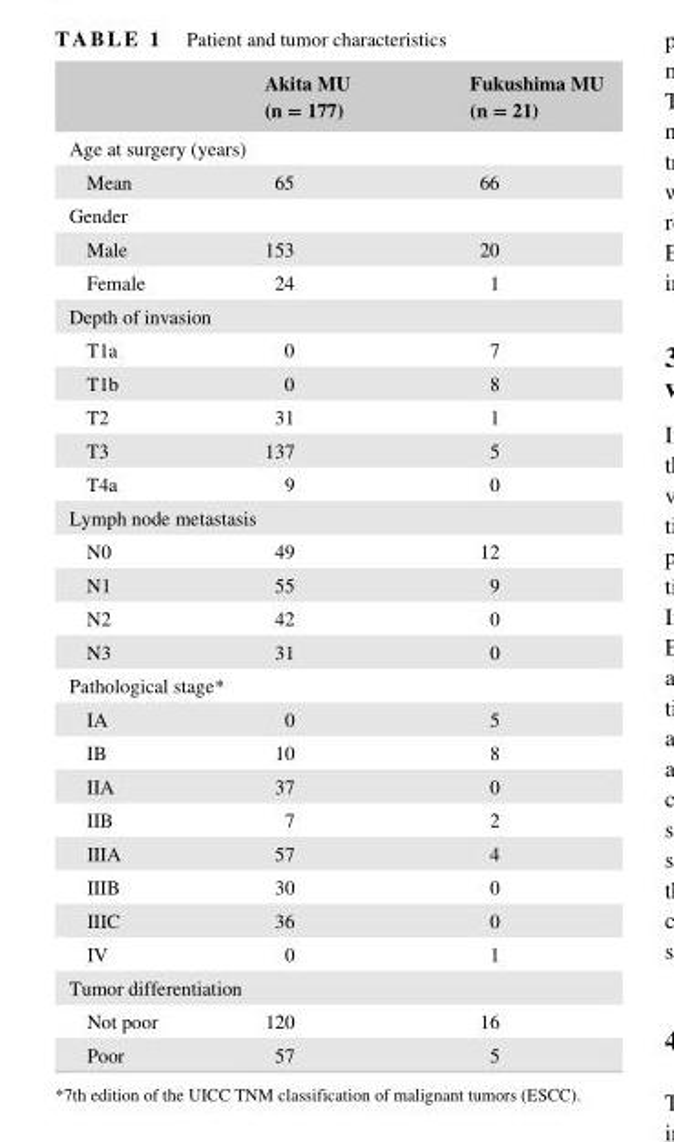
<table><thead><tr><td></td><td>Akita MU (n = 177)</td><td>Fukushima MU (n = 21)</td></tr></thead><tbody><tr><td colspan="3">Age at surgery (years)</td></tr><tr><td>Mean</td><td>65</td><td>66</td></tr><tr><td colspan="3">Gender</td></tr><tr><td>Male</td><td>153</td><td>20</td></tr><tr><td>Female</td><td>24</td><td>1</td></tr><tr><td colspan="3">Depth of invasion</td></tr><tr><td>T1a</td><td>0</td><td>7</td></tr><tr><td>T1b</td><td>0</td><td>8</td></tr><tr><td>T2</td><td>31</td><td>1</td></tr><tr><td>T3</td><td>137</td><td>5</td></tr><tr><td>T4a</td><td>9</td><td>0</td></tr><tr><td colspan="3">Lymph node metastasis</td></tr><tr><td>N0</td><td>49</td><td>12</td></tr><tr><td>N1</td><td>55</td><td>9</td></tr><tr><td>N2</td><td>42</td><td>0</td></tr><tr><td>N3</td><td>31</td><td>0</td></tr><tr><td colspan="3">Pathological stage*</td></tr><tr><td>IA</td><td>0</td><td>5</td></tr><tr><td>IB</td><td>10</td><td>8</td></tr><tr><td>IIA</td><td>37</td><td>0</td></tr><tr><td>IIB</td><td>7</td><td>2</td></tr><tr><td>IIIA</td><td>57</td><td>4</td></tr><tr><td>IIIB</td><td>30</td><td>0</td></tr><tr><td>IIIC</td><td>36</td><td>0</td></tr><tr><td>IV</td><td>0</td><td>1</td></tr><tr><td colspan="3">Tumor differentiation</td></tr><tr><td>Not poor</td><td>120</td><td>16</td></tr><tr><td>Poor</td><td>57</td><td>5</td></tr></tbody></table>